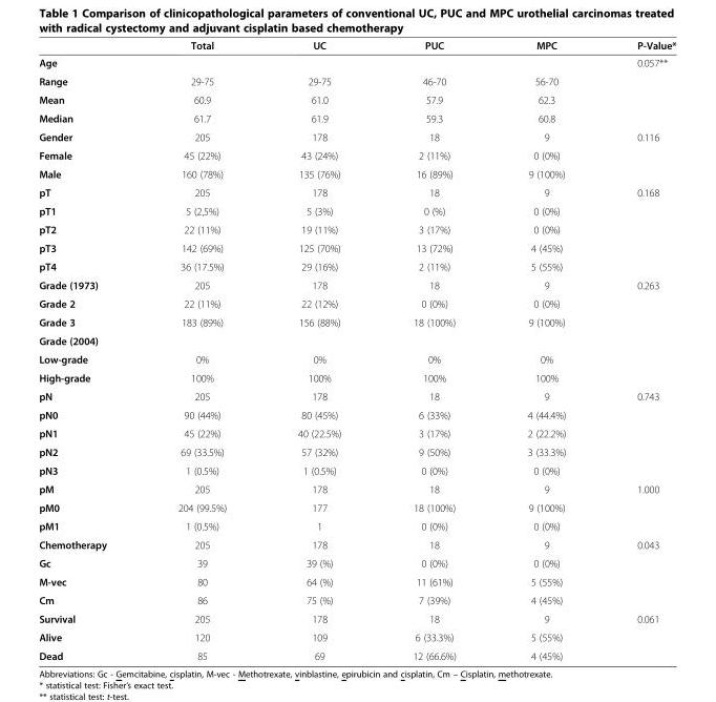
<table><thead><tr><td></td><td>Total</td><td>UC</td><td>PUC</td><td>MPC</td><td>P-Value*</td></tr></thead><tbody><tr><td>Age</td><td></td><td></td><td></td><td></td><td>0.057**</td></tr><tr><td>Range</td><td>29-75</td><td>29-75</td><td>46-70</td><td>56-70</td><td></td></tr><tr><td>Mean</td><td>60.9</td><td>61.0</td><td>57.9</td><td>62.3</td><td></td></tr><tr><td>Median</td><td>61.7</td><td>61.9</td><td>59.3</td><td>60.8</td><td></td></tr><tr><td>Gender</td><td>205</td><td>178</td><td>18</td><td>9</td><td>0.116</td></tr><tr><td>Female</td><td>45 (22%)</td><td>43 (24%)</td><td>2 (11%)</td><td>0 (0%)</td><td></td></tr><tr><td>Male</td><td>160 (78%)</td><td>135 (76%)</td><td>16 (89%)</td><td>9 (100%)</td><td></td></tr><tr><td>pT</td><td>205</td><td>178</td><td>18</td><td>9</td><td>0.168</td></tr><tr><td>pT1</td><td>5 (2,5%)</td><td>5 (3%)</td><td>0 (%)</td><td>0 (0%)</td><td></td></tr><tr><td>pT2</td><td>22 (11%)</td><td>19 (11%)</td><td>3 (17%)</td><td>0 (0%)</td><td></td></tr><tr><td>pT3</td><td>142 (69%)</td><td>125 (70%)</td><td>13 (72%)</td><td>4 (45%)</td><td></td></tr><tr><td>pT4</td><td>36 (17.5%)</td><td>29 (16%)</td><td>2 (11%)</td><td>5 (55%)</td><td></td></tr><tr><td>Grade (1973)</td><td>205</td><td>178</td><td>18</td><td>9</td><td>0.263</td></tr><tr><td>Grade 2</td><td>22 (11%)</td><td>22 (12%)</td><td>0 (0%)</td><td>0 (0%)</td><td></td></tr><tr><td>Grade 3</td><td>183 (89%)</td><td>156 (88%)</td><td>18 (100%)</td><td>9 (100%)</td><td></td></tr><tr><td colspan="6">Grade (2004)</td></tr><tr><td>Low-grade</td><td>0%</td><td>0%</td><td>0%</td><td>0%</td><td></td></tr><tr><td>High-grade</td><td>100%</td><td>100%</td><td>100%</td><td>100%</td><td></td></tr><tr><td>pN</td><td>205</td><td>178</td><td>18</td><td>9</td><td>0.743</td></tr><tr><td>pN0</td><td>90 (44%)</td><td>80 (45%)</td><td>6 (33%)</td><td>4 (44.4%)</td><td></td></tr><tr><td>pN1</td><td>45 (22%)</td><td>40 (22.5%)</td><td>3 (17%)</td><td>2 (22.2%)</td><td></td></tr><tr><td>pN2</td><td>69 (33.5%)</td><td>57 (32%)</td><td>9 (50%)</td><td>3 (33.3%)</td><td></td></tr><tr><td>pN3</td><td>1 (0.5%)</td><td>1 (0.5%)</td><td>0 (0%)</td><td>0 (0%)</td><td></td></tr><tr><td>pM</td><td>205</td><td>178</td><td>18</td><td>9</td><td>1.000</td></tr><tr><td>pM0</td><td>204 (99.5%)</td><td>177</td><td>18 (100%)</td><td>9 (100%)</td><td></td></tr><tr><td>pM1</td><td>1 (0.5%)</td><td>1</td><td>0 (0%)</td><td>0 (0%)</td><td></td></tr><tr><td>Chemotherapy</td><td>205</td><td>178</td><td>18</td><td>9</td><td>0.043</td></tr><tr><td>Gc</td><td>39</td><td>39 (%)</td><td>0 (0%)</td><td>0 (0%)</td><td></td></tr><tr><td>M-vec</td><td>80</td><td>64 (%)</td><td>11 (61%)</td><td>5 (55%)</td><td></td></tr><tr><td>Cm</td><td>86</td><td>75 (%)</td><td>7 (39%)</td><td>4 (45%)</td><td></td></tr><tr><td>Survival</td><td>205</td><td>178</td><td>18</td><td>9</td><td>0.061</td></tr><tr><td>Alive</td><td>120</td><td>109</td><td>6 (33.3%)</td><td>5 (55%)</td><td></td></tr><tr><td>Dead</td><td>85</td><td>69</td><td>12 (66.6%)</td><td>4 (45%)</td><td></td></tr></tbody></table>